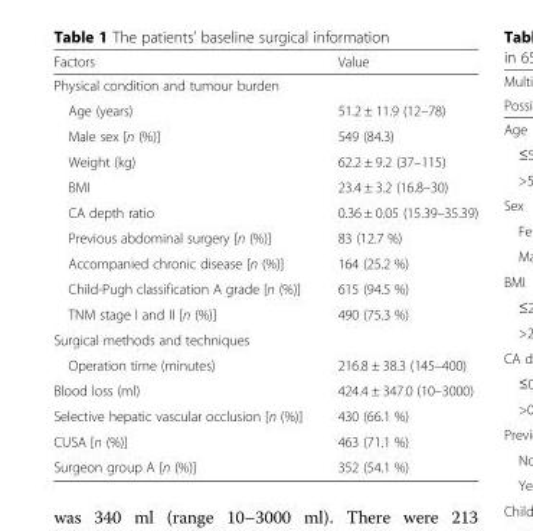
<table><thead><tr><td>Factors</td><td>Value</td></tr></thead><tbody><tr><td colspan="2">Physical condition and tumour burden</td></tr><tr><td>Age (years)</td><td>51.2 ± 11.9 (12–78)</td></tr><tr><td>Male sex [n (%)]</td><td>549 (84.3)</td></tr><tr><td>Weight (kg)</td><td>62.2 ± 9.2 (37–115)</td></tr><tr><td>BMI</td><td>23.4 ± 3.2 (16.8–30)</td></tr><tr><td>CA depth ratio</td><td>0.36 ± 0.05 (15.39–35.39)</td></tr><tr><td>Previous abdominal surgery [n (%)]</td><td>83 (12.7 %)</td></tr><tr><td>Accompanied chronic disease [n (%)]</td><td>164 (25.2 %)</td></tr><tr><td>Child-Pugh classification A grade [n (%)]</td><td>615 (94.5 %)</td></tr><tr><td>TNM stage I and II [n (%)]</td><td>490 (75.3 %)</td></tr><tr><td colspan="2">Surgical methods and techniques</td></tr><tr><td>Operation time (minutes)</td><td>216.8 ± 38.3 (145–400)</td></tr><tr><td>Blood loss (ml)</td><td>424.4 ± 347.0 (10–3000)</td></tr><tr><td>Selective hepatic vascular occlusion [n (%)]</td><td>430 (66.1 %)</td></tr><tr><td>CUSA [n (%)]</td><td>463 (71.1 %)</td></tr><tr><td>Surgeon group A [n (%)]</td><td>352 (54.1 %)</td></tr></tbody></table>